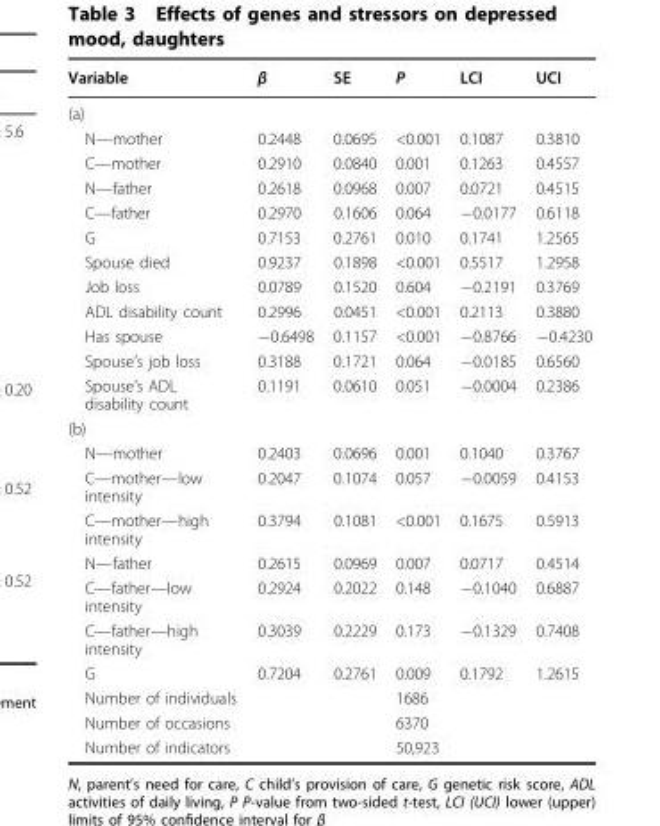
<table><thead><tr><td>Variable</td><td>β</td><td>SE</td><td>P</td><td>LCI</td><td>UCI</td></tr></thead><tbody><tr><td colspan="6">(a)</td></tr><tr><td>N—mother</td><td>0.2448</td><td>0.0695</td><td>&lt;0.001</td><td>0.1087</td><td>0.3810</td></tr><tr><td>C—mother</td><td>0.2910</td><td>0.0840</td><td>0.001</td><td>0.1263</td><td>0.4557</td></tr><tr><td>N—father</td><td>0.2618</td><td>0.0968</td><td>0.007</td><td>0.0721</td><td>0.4515</td></tr><tr><td>C—father</td><td>0.2970</td><td>0.1606</td><td>0.064</td><td>−0.0177</td><td>0.6118</td></tr><tr><td>G</td><td>0.7153</td><td>0.2761</td><td>0.010</td><td>0.1741</td><td>1.2565</td></tr><tr><td>Spouse died</td><td>0.9237</td><td>0.1898</td><td>&lt;0.001</td><td>0.5517</td><td>1.2958</td></tr><tr><td>Job loss</td><td>0.0789</td><td>0.1520</td><td>0.604</td><td>−0.2191</td><td>0.3769</td></tr><tr><td>ADL disability count</td><td>0.2996</td><td>0.0451</td><td>&lt;0.001</td><td>0.2113</td><td>0.3880</td></tr><tr><td>Has spouse</td><td>−0.6498</td><td>0.1157</td><td>&lt;0.001</td><td>−0.8766</td><td>−0.4230</td></tr><tr><td>Spouse’s job loss</td><td>0.3188</td><td>0.1721</td><td>0.064</td><td>−0.0185</td><td>0.6560</td></tr><tr><td>Spouse’s ADL disability count</td><td>0.1191</td><td>0.0610</td><td>0.051</td><td>−0.0004</td><td>0.2386</td></tr><tr><td colspan="6">(b)</td></tr><tr><td>N—mother</td><td>0.2403</td><td>0.0696</td><td>0.001</td><td>0.1040</td><td>0.3767</td></tr><tr><td>C—mother—low intensity</td><td>0.2047</td><td>0.1074</td><td>0.057</td><td>−0.0059</td><td>0.4153</td></tr><tr><td>C—mother—high intensity</td><td>0.3794</td><td>0.1081</td><td>&lt;0.001</td><td>0.1675</td><td>0.5913</td></tr><tr><td>N—father</td><td>0.2615</td><td>0.0969</td><td>0.007</td><td>0.0717</td><td>0.4514</td></tr><tr><td>C—father—low intensity</td><td>0.2924</td><td>0.2022</td><td>0.148</td><td>−0.1040</td><td>0.6887</td></tr><tr><td>C—father—high intensity</td><td>0.3039</td><td>0.2229</td><td>0.173</td><td>−0.1329</td><td>0.7408</td></tr><tr><td>G</td><td>0.7204</td><td>0.2761</td><td>0.009</td><td>0.1792</td><td>1.2615</td></tr><tr><td>Number of individuals</td><td></td><td></td><td>1686</td><td></td><td></td></tr><tr><td>Number of occasions</td><td></td><td></td><td>6370</td><td></td><td></td></tr><tr><td>Number of indicators</td><td></td><td></td><td>50,923</td><td></td><td></td></tr></tbody></table>